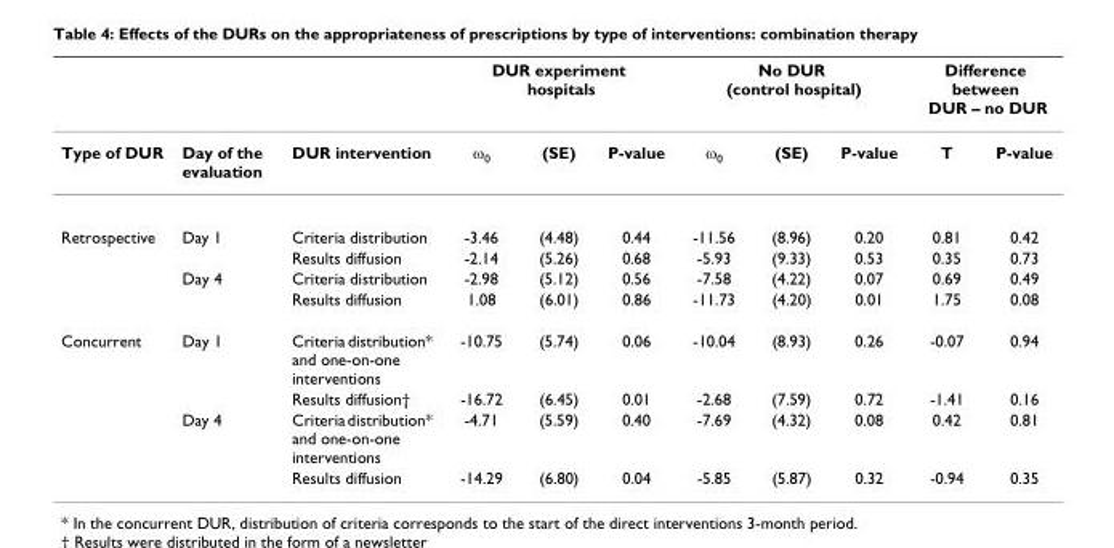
<table><thead><tr><td rowspan="2">Type of DUR</td><td rowspan="2">Day of the evaluation</td><td rowspan="2">DUR intervention</td><td colspan="3">DUR experiment hospitals</td><td colspan="3">No DUR (control hospital)</td><td colspan="2">Difference between DUR – no DUR</td></tr><tr><td>ω0</td><td>(SE)</td><td>P-value</td><td>ω0</td><td>(SE)</td><td>P-value</td><td>T</td><td>P-value</td></tr></thead><tbody><tr><td rowspan="4">Retrospective</td><td>Day 1</td><td>Criteria distribution</td><td>-3.46</td><td>(4.48)</td><td>0.44</td><td>-11.56</td><td>(8.96)</td><td>0.20</td><td>0.81</td><td>0.42</td></tr><tr><td></td><td>Results diffusion</td><td>-2.14</td><td>(5.26)</td><td>0.68</td><td>-5.93</td><td>(9.33)</td><td>0.53</td><td>0.35</td><td>0.73</td></tr><tr><td>Day 4</td><td>Criteria distribution</td><td>-2.98</td><td>(5.12)</td><td>0.56</td><td>-7.58</td><td>(4.22)</td><td>0.07</td><td>0.69</td><td>0.49</td></tr><tr><td></td><td>Results diffusion</td><td>1.08</td><td>(6.01)</td><td>0.86</td><td>-11.73</td><td>(4.20)</td><td>0.01</td><td>1.75</td><td>0.08</td></tr><tr><td rowspan="4">Concurrent</td><td>Day 1</td><td>Criteria distribution* and one-on-one interventions</td><td>-10.75</td><td>(5.74)</td><td>0.06</td><td>-10.04</td><td>(8.93)</td><td>0.26</td><td>-0.07</td><td>0.94</td></tr><tr><td></td><td>Results diffusion†</td><td>-16.72</td><td>(6.45)</td><td>0.01</td><td>-2.68</td><td>(7.59)</td><td>0.72</td><td>-1.41</td><td>0.16</td></tr><tr><td>Day 4</td><td>Criteria distribution* and one-on-one interventions</td><td>-4.71</td><td>(5.59)</td><td>0.40</td><td>-7.69</td><td>(4.32)</td><td>0.08</td><td>0.42</td><td>0.81</td></tr><tr><td></td><td>Results diffusion</td><td>-14.29</td><td>(6.80)</td><td>0.04</td><td>-5.85</td><td>(5.87)</td><td>0.32</td><td>-0.94</td><td>0.35</td></tr></tbody></table>